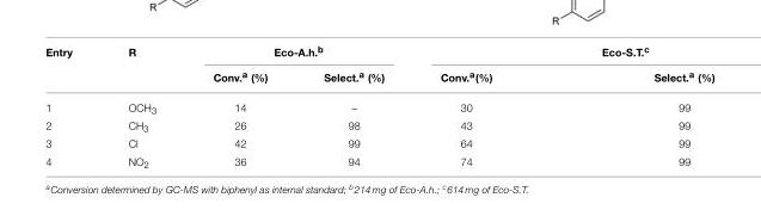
<table><thead><tr><td rowspan="2">Entry</td><td rowspan="2">R</td><td colspan="2">Eco-A.h.<sup>b</sup></td><td colspan="2">Eco-S.T.<sup>c</sup></td></tr><tr><td>Conv.<sup>a</sup> (%)</td><td>Select.<sup>a</sup> (%)</td><td>Conv.<sup>a</sup>(%)</td><td>Select.<sup>a</sup> (%)</td></tr></thead><tbody><tr><td>1</td><td>OCH<sub>3</sub></td><td>14</td><td>–</td><td>30</td><td>99</td></tr><tr><td>2</td><td>CH<sub>3</sub></td><td>26</td><td>98</td><td>43</td><td>99</td></tr><tr><td>3</td><td>Cl</td><td>42</td><td>99</td><td>64</td><td>99</td></tr><tr><td>4</td><td>NO<sub>2</sub></td><td>36</td><td>94</td><td>74</td><td>99</td></tr></tbody></table>